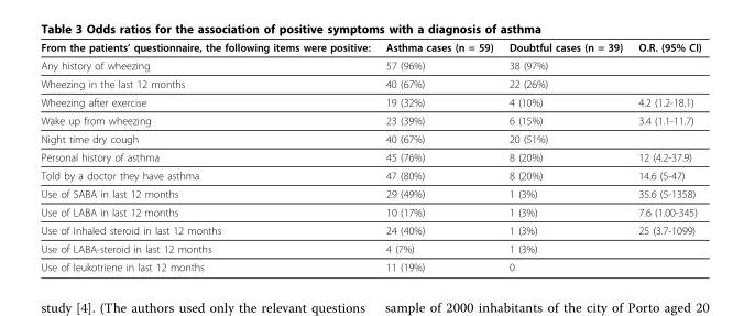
<table><thead><tr><td>From the patients’ questionnaire, the following items were positive:</td><td>Asthma cases (n = 59)</td><td>Doubtful cases (n = 39)</td><td>O.R. (95% CI)</td></tr></thead><tbody><tr><td>Any history of wheezing</td><td>57 (96%)</td><td>38 (97%)</td><td></td></tr><tr><td>Wheezing in the last 12 months</td><td>40 (67%)</td><td>22 (26%)</td><td></td></tr><tr><td>Wheezing after exercise</td><td>19 (32%)</td><td>4 (10%)</td><td>4.2 (1.2-18.1)</td></tr><tr><td>Wake up from wheezing</td><td>23 (39%)</td><td>6 (15%)</td><td>3.4 (1.1-11.7)</td></tr><tr><td>Night time dry cough</td><td>40 (67%)</td><td>20 (51%)</td><td></td></tr><tr><td>Personal history of asthma</td><td>45 (76%)</td><td>8 (20%)</td><td>12 (4.2-37.9)</td></tr><tr><td>Told by a doctor they have asthma</td><td>47 (80%)</td><td>8 (20%)</td><td>14.6 (5-47)</td></tr><tr><td>Use of SABA in last 12 months</td><td>29 (49%)</td><td>1 (3%)</td><td>35.6 (5-1358)</td></tr><tr><td>Use of LABA in last 12 months</td><td>10 (17%)</td><td>1 (3%)</td><td>7.6 (1.00-345)</td></tr><tr><td>Use of Inhaled steroid in last 12 months</td><td>24 (40%)</td><td>1 (3%)</td><td>25 (3.7-1099)</td></tr><tr><td>Use of LABA-steroid in last 12 months</td><td>4 (7%)</td><td>1 (3%)</td><td></td></tr><tr><td>Use of leukotriene in last 12 months</td><td>11 (19%)</td><td>0</td><td></td></tr></tbody></table>